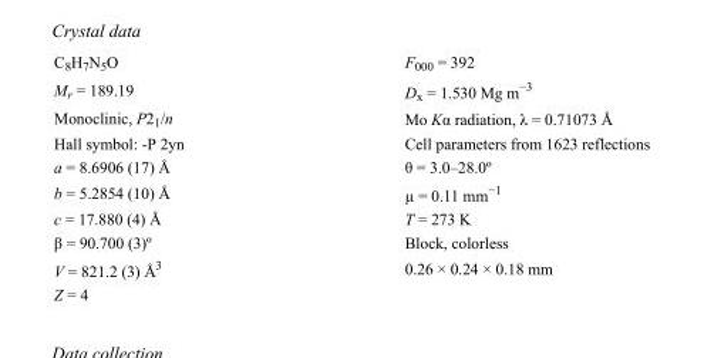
<table><tbody><tr><td>C<sub>8</sub>H<sub>7</sub>N<sub>5</sub>O</td><td>F000 = 392</td></tr><tr><td>M<sub>r</sub> = 189.19</td><td>D<sub>x</sub> = 1.530 Mg m<sup>−3</sup></td></tr><tr><td>Monoclinic, P2<sub>1</sub>/n</td><td>Mo Kα radiation, λ = 0.71073 Å</td></tr><tr><td>Hall symbol: -P 2yn</td><td>Cell parameters from 1623 reflections</td></tr><tr><td>a = 8.6906 (17) Å</td><td>θ = 3.0–28.0º</td></tr><tr><td>b = 5.2854 (10) Å</td><td>µ = 0.11 mm<sup>−1</sup></td></tr><tr><td>c = 17.880 (4) Å</td><td>T = 273 K</td></tr><tr><td>β = 90.700 (3)º</td><td>Block, colorless</td></tr><tr><td>V = 821.2 (3) Å<sup>3</sup></td><td>0.26 × 0.24 × 0.18 mm</td></tr><tr><td>Z = 4</td><td></td></tr></tbody></table>